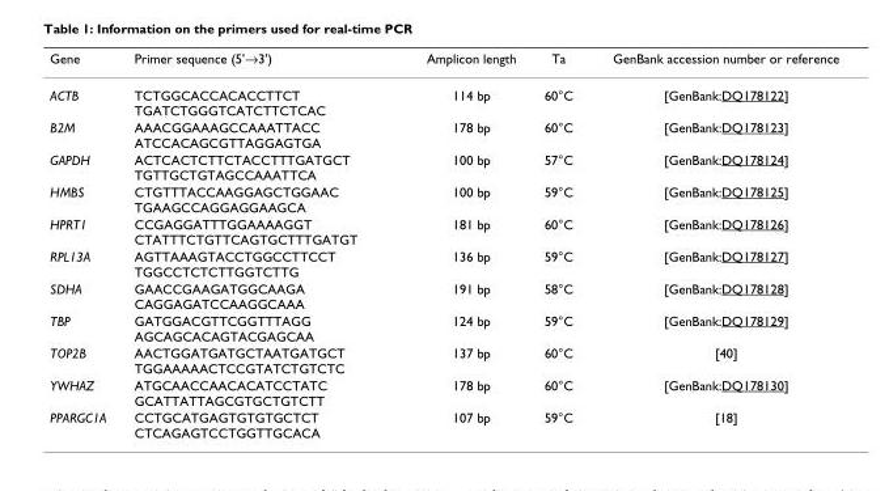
<table><thead><tr><td>Gene</td><td>Primer sequence (5&#x27;→3&#x27;)</td><td>Amplicon length</td><td>Ta</td><td>GenBank accession number or reference</td></tr></thead><tbody><tr><td>ACTB</td><td>TCTGGCACCACACCTTCT TGATCTGGGTCATCTTCTCAC</td><td>114 bp</td><td>60°C</td><td>[GenBank:DQ178122]</td></tr><tr><td>B2M</td><td>AAACGGAAAGCCAAATTACC ATCCACAGCGTTAGGAGTGA</td><td>178 bp</td><td>60°C</td><td>[GenBank:DQ178123]</td></tr><tr><td>GAPDH</td><td>ACTCACTCTTCTACCTTTGATGCT TGTTGCTGTAGCCAAATTCA</td><td>100 bp</td><td>57°C</td><td>[GenBank:DQ178124]</td></tr><tr><td>HMBS</td><td>CTGTTTACCAAGGAGCTGGAAC TGAAGCCAGGAGGAAGCA</td><td>100 bp</td><td>59°C</td><td>[GenBank:DQ178125]</td></tr><tr><td>HPRT1</td><td>CCGAGGATTTGGAAAAGGT CTATTTCTGTTCAGTGCTTTGATGT</td><td>181 bp</td><td>60°C</td><td>[GenBank:DQ178126]</td></tr><tr><td>RPL13A</td><td>AGTTAAAGTACCTGGCCTTCCT TGGCCTCTCTTGGTCTTG</td><td>136 bp</td><td>59°C</td><td>[GenBank:DQ178127]</td></tr><tr><td>SDHA</td><td>GAACCGAAGATGGCAAGA CAGGAGATCCAAGGCAAA</td><td>191 bp</td><td>58°C</td><td>[GenBank:DQ178128]</td></tr><tr><td>TBP</td><td>GATGGACGTTCGGTTTAGG AGCAGCACAGTACGAGCAA</td><td>124 bp</td><td>59°C</td><td>[GenBank:DQ178129]</td></tr><tr><td>TOP2B</td><td>AACTGGATGATGCTAATGATGCT TGGAAAAACTCCGTATCTGTCTC</td><td>137 bp</td><td>60°C</td><td>[40]</td></tr><tr><td>YWHAZ</td><td>ATGCAACCAACACATCCTATC GCATTATTAGCGTGCTGTCTT</td><td>178 bp</td><td>60°C</td><td>[GenBank:DQ178130]</td></tr><tr><td>PPARGC1A</td><td>CCTGCATGAGTGTGTGCTCT CTCAGAGTCCTGGTTGCACA</td><td>107 bp</td><td>59°C</td><td>[18]</td></tr></tbody></table>